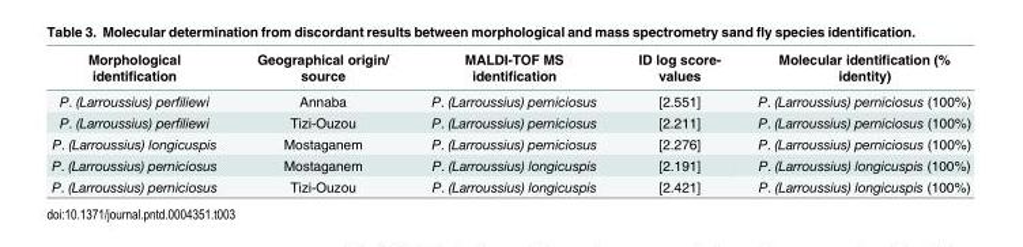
<table><thead><tr><td>Morphological identification</td><td>Geographical origin/ source</td><td>MALDI-TOF MS identification</td><td>ID log score- values</td><td>Molecular identification (% identity)</td></tr></thead><tbody><tr><td>P. (Larroussius) perfiliewi</td><td>Annaba</td><td>P. (Larroussius) perniciosus</td><td>[2.551]</td><td>P. (Larroussius) perniciosus (100%)</td></tr><tr><td>P. (Larroussius) perfiliewi</td><td>Tizi-Ouzou</td><td>P. (Larroussius) perniciosus</td><td>[2.211]</td><td>P. (Larroussius) perniciosus (100%)</td></tr><tr><td>P. (Larroussius) longicuspis</td><td>Mostaganem</td><td>P. (Larroussius) perniciosus</td><td>[2.276]</td><td>P. (Larroussius) perniciosus (100%)</td></tr><tr><td>P. (Larroussius) perniciosus</td><td>Mostaganem</td><td>P. (Larroussius) longicuspis</td><td>[2.191]</td><td>P. (Larroussius) longicuspis (100%)</td></tr><tr><td>P. (Larroussius) perniciosus</td><td>Tizi-Ouzou</td><td>P. (Larroussius) longicuspis</td><td>[2.421]</td><td>P. (Larroussius) longicuspis (100%)</td></tr></tbody></table>